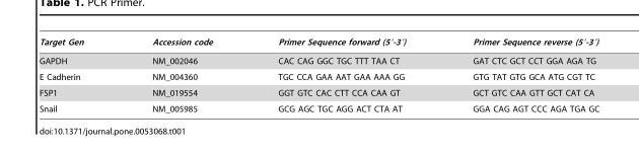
<table><thead><tr><td>Target Gen</td><td>Accession code</td><td>Primer Sequence forward (5′-3′)</td><td>Primer Sequence reverse (5′-3′)</td></tr></thead><tbody><tr><td>GAPDH</td><td>NM_002046</td><td>CAC CAG GGC TGC TTT TAA CT</td><td>GAT CTC GCT CCT GGA AGA TG</td></tr><tr><td>E Cadherin</td><td>NM_004360</td><td>TGC CCA GAA AAT GAA AAA GG</td><td>GTG TAT GTG GCA ATG CGT TC</td></tr><tr><td>FSP1</td><td>NM_019554</td><td>GGT GTC CAC CTT CCA CAA GT</td><td>GCT GTC CAA GTT GCT CAT CA</td></tr><tr><td>Snail</td><td>NM_005985</td><td>GCG AGC TGC AGG ACT CTA AT</td><td>GGA CAG AGT CCC AGA TGA GC</td></tr></tbody></table>